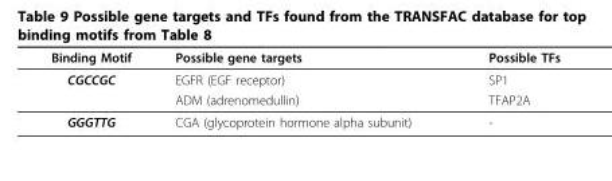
<table><thead><tr><td>Binding Motif</td><td>Possible gene targets</td><td>Possible TFs</td></tr></thead><tbody><tr><td rowspan="2">CGCCGC</td><td>EGFR (EGF receptor)</td><td>SP1</td></tr><tr><td>ADM (adrenomedullin)</td><td>TFAP2A</td></tr><tr><td>GGGTTG</td><td>CGA (glycoprotein hormone alpha subunit)</td><td>-</td></tr></tbody></table>